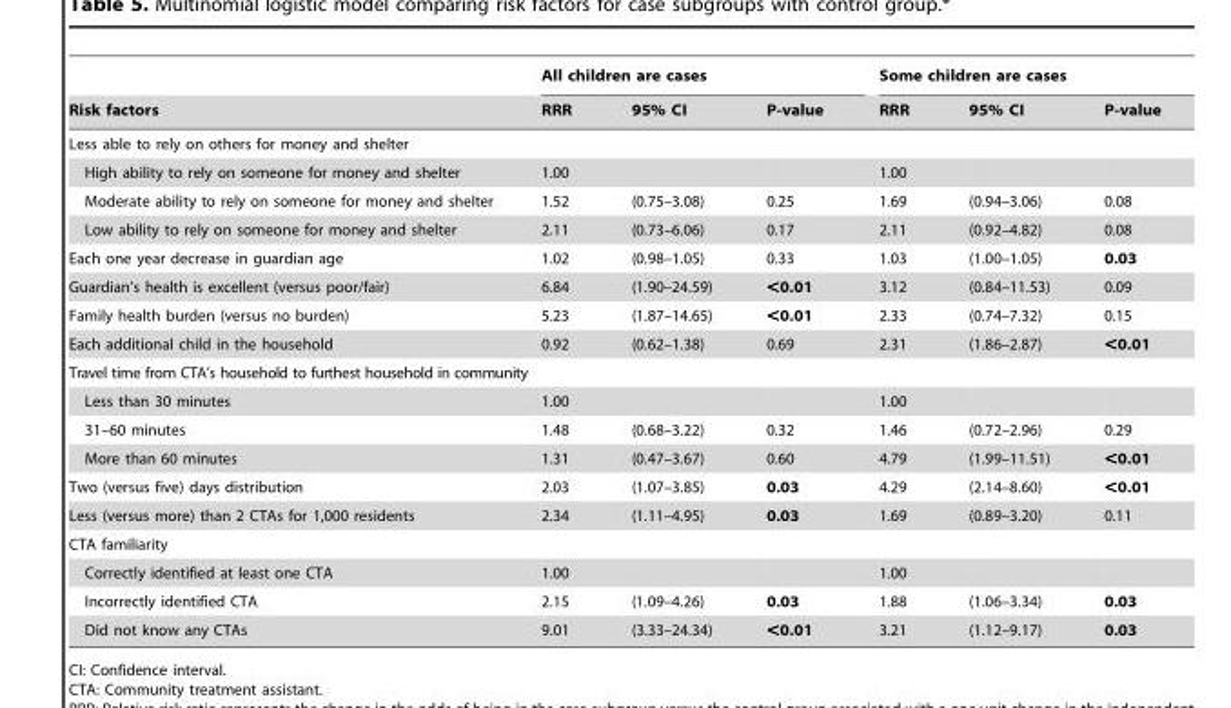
<table><thead><tr><td rowspan="2">Risk factors</td><td colspan="3">All children are cases</td><td colspan="3">Some children are cases</td></tr><tr><td>RRR</td><td>95% CI</td><td>P-value</td><td>RRR</td><td>95% CI</td><td>P-value</td></tr></thead><tbody><tr><td colspan="7">Less able to rely on others for money and shelter</td></tr><tr><td>High ability to rely on someone for money and shelter</td><td>1.00</td><td></td><td></td><td>1.00</td><td></td><td></td></tr><tr><td>Moderate ability to rely on someone for money and shelter</td><td>1.52</td><td>(0.75–3.08)</td><td>0.25</td><td>1.69</td><td>(0.94–3.06)</td><td>0.08</td></tr><tr><td>Low ability to rely on someone for money and shelter</td><td>2.11</td><td>(0.73–6.06)</td><td>0.17</td><td>2.11</td><td>(0.92–4.82)</td><td>0.08</td></tr><tr><td>Each one year decrease in guardian age</td><td>1.02</td><td>(0.98–1.05)</td><td>0.33</td><td>1.03</td><td>(1.00–1.05)</td><td>0.03</td></tr><tr><td>Guardian’s health is excellent (versus poor/fair)</td><td>6.84</td><td>(1.90–24.59)</td><td>&lt;0.01</td><td>3.12</td><td>(0.84–11.53)</td><td>0.09</td></tr><tr><td>Family health burden (versus no burden)</td><td>5.23</td><td>(1.87–14.65)</td><td>&lt;0.01</td><td>2.33</td><td>(0.74–7.32)</td><td>0.15</td></tr><tr><td>Each additional child in the household</td><td>0.92</td><td>(0.62–1.38)</td><td>0.69</td><td>2.31</td><td>(1.86–2.87)</td><td>&lt;0.01</td></tr><tr><td colspan="7">Travel time from CTA’s household to furthest household in community</td></tr><tr><td>Less than 30 minutes</td><td>1.00</td><td></td><td></td><td>1.00</td><td></td><td></td></tr><tr><td>31–60 minutes</td><td>1.48</td><td>(0.68–3.22)</td><td>0.32</td><td>1.46</td><td>(0.72–2.96)</td><td>0.29</td></tr><tr><td>More than 60 minutes</td><td>1.31</td><td>(0.47–3.67)</td><td>0.60</td><td>4.79</td><td>(1.99–11.51)</td><td>&lt;0.01</td></tr><tr><td>Two (versus five) days distribution</td><td>2.03</td><td>(1.07–3.85)</td><td>0.03</td><td>4.29</td><td>(2.14–8.60)</td><td>&lt;0.01</td></tr><tr><td>Less (versus more) than 2 CTAs for 1,000 residents</td><td>2.34</td><td>(1.11–4.95)</td><td>0.03</td><td>1.69</td><td>(0.89–3.20)</td><td>0.11</td></tr><tr><td colspan="7">CTA familiarity</td></tr><tr><td>Correctly identified at least one CTA</td><td>1.00</td><td></td><td></td><td>1.00</td><td></td><td></td></tr><tr><td>Incorrectly identified CTA</td><td>2.15</td><td>(1.09–4.26)</td><td>0.03</td><td>1.88</td><td>(1.06–3.34)</td><td>0.03</td></tr><tr><td>Did not know any CTAs</td><td>9.01</td><td>(3.33–24.34)</td><td>&lt;0.01</td><td>3.21</td><td>(1.12–9.17)</td><td>0.03</td></tr></tbody></table>